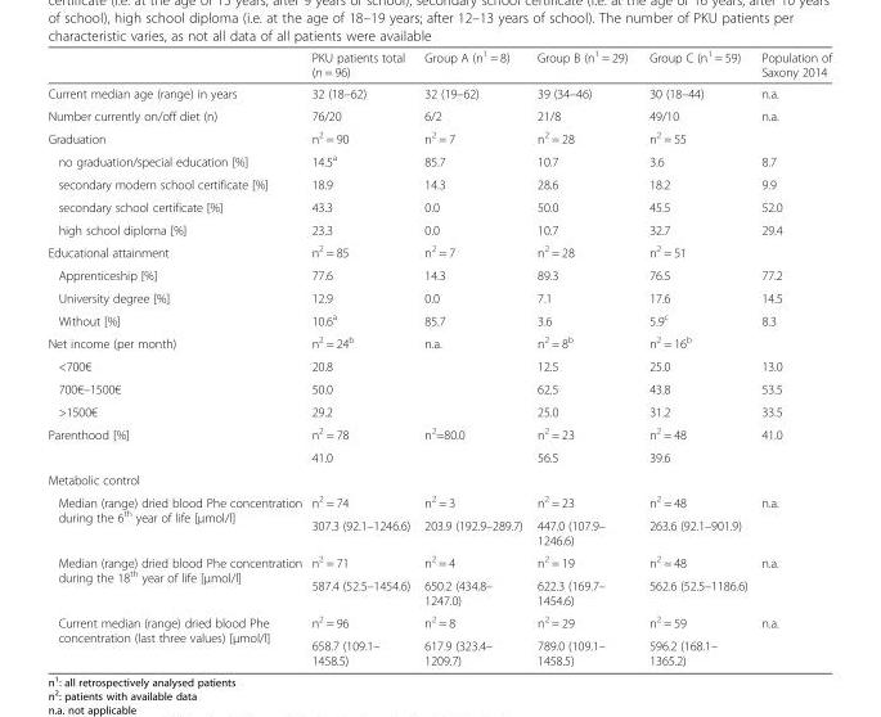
<table><thead><tr><td></td><td>PKU patients total (n = 96)</td><td>Group A (n<sup>1</sup> = 8)</td><td>Group B (n<sup>1</sup> = 29)</td><td>Group C (n<sup>1</sup> = 59)</td><td>Population of Saxony 2014</td></tr></thead><tbody><tr><td>Current median age (range) in years</td><td>32 (18–62)</td><td>32 (19–62)</td><td>39 (34–46)</td><td>30 (18–44)</td><td>n.a.</td></tr><tr><td>Number currently on/off diet (n)</td><td>76/20</td><td>6/2</td><td>21/8</td><td>49/10</td><td>n.a.</td></tr><tr><td>Graduation</td><td>n<sup>2</sup> = 90</td><td>n<sup>2</sup> = 7</td><td>n<sup>2</sup> = 28</td><td>n<sup>2</sup> = 55</td><td></td></tr><tr><td>no graduation/special education [%]</td><td>14.5<sup>a</sup></td><td>85.7</td><td>10.7</td><td>3.6</td><td>8.7</td></tr><tr><td>secondary modern school certificate [%]</td><td>18.9</td><td>14.3</td><td>28.6</td><td>18.2</td><td>9.9</td></tr><tr><td>secondary school certificate [%]</td><td>43.3</td><td>0.0</td><td>50.0</td><td>45.5</td><td>52.0</td></tr><tr><td>high school diploma [%]</td><td>23.3</td><td>0.0</td><td>10.7</td><td>32.7</td><td>29.4</td></tr><tr><td>Educational attainment</td><td>n<sup>2</sup> = 85</td><td>n<sup>2</sup> = 7</td><td>n<sup>2</sup> = 28</td><td>n<sup>2</sup> = 51</td><td></td></tr><tr><td>Apprenticeship [%]</td><td>77.6</td><td>14.3</td><td>89.3</td><td>76.5</td><td>77.2</td></tr><tr><td>University degree [%]</td><td>12.9</td><td>0.0</td><td>7.1</td><td>17.6</td><td>14.5</td></tr><tr><td>Without [%]</td><td>10.6<sup>a</sup></td><td>85.7</td><td>3.6</td><td>5.9<sup>c</sup></td><td>8.3</td></tr><tr><td>Net income (per month)</td><td>n<sup>2</sup> = 24<sup>b</sup></td><td>n.a.</td><td>n<sup>2</sup> = 8<sup>b</sup></td><td>n<sup>2</sup> = 16<sup>b</sup></td><td></td></tr><tr><td>&lt;700€</td><td>20.8</td><td></td><td>12.5</td><td>25.0</td><td>13.0</td></tr><tr><td>700€–1500€</td><td>50.0</td><td></td><td>62.5</td><td>43.8</td><td>53.5</td></tr><tr><td>&gt;1500€</td><td>29.2</td><td></td><td>25.0</td><td>31.2</td><td>33.5</td></tr><tr><td rowspan="2">Parenthood [%]</td><td>n<sup>2</sup> = 78</td><td rowspan="2">n<sup>2</sup>=80.0</td><td>n<sup>2</sup> = 23</td><td>n<sup>2</sup> = 48</td><td rowspan="2">41.0</td></tr><tr><td>41.0</td><td>56.5</td><td>39.6</td></tr><tr><td colspan="6">Metabolic control</td></tr><tr><td rowspan="2">Median (range) dried blood Phe concentration during the 6<sup>th</sup> year of life [μmol/l]</td><td>n<sup>2</sup> = 74</td><td>n<sup>2</sup> = 3</td><td>n<sup>2</sup> = 23</td><td>n<sup>2</sup> = 48</td><td rowspan="2">n.a.</td></tr><tr><td>307.3 (92.1–1246.6)</td><td>203.9 (192.9–289.7)</td><td>447.0 (107.9– 1246.6)</td><td>263.6 (92.1–901.9)</td></tr><tr><td rowspan="2">Median (range) dried blood Phe concentration during the 18<sup>th</sup> year of life [μmol/l]</td><td>n<sup>2</sup> = 71</td><td>n<sup>2</sup> = 4</td><td>n<sup>2</sup> = 19</td><td>n<sup>2</sup> = 48</td><td rowspan="2">n.a.</td></tr><tr><td>587.4 (52.5–1454.6)</td><td>650.2 (434.8– 1247.0)</td><td>622.3 (169.7– 1454.6)</td><td>562.6 (52.5–1186.6)</td></tr><tr><td rowspan="2">Current median (range) dried blood Phe concentration (last three values) [μmol/l]</td><td>n<sup>2</sup> = 96</td><td>n<sup>2</sup> = 8</td><td>n<sup>2</sup> = 29</td><td>n<sup>2</sup> = 59</td><td rowspan="2">n.a.</td></tr><tr><td>658.7 (109.1– 1458.5)</td><td>617.9 (323.4– 1209.7)</td><td>789.0 (109.1– 1458.5)</td><td>596.2 (168.1– 1365.2)</td></tr></tbody></table>